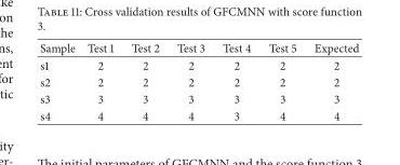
<table><thead><tr><td>Sample</td><td>Test 1</td><td>Test 2</td><td>Test 3</td><td>Test 4</td><td>Test 5</td><td>Expected</td></tr></thead><tbody><tr><td>s1</td><td>2</td><td>2</td><td>2</td><td>2</td><td>2</td><td>2</td></tr><tr><td>s2</td><td>2</td><td>2</td><td>2</td><td>2</td><td>2</td><td>2</td></tr><tr><td>s3</td><td>3</td><td>3</td><td>3</td><td>3</td><td>3</td><td>3</td></tr><tr><td>s4</td><td>4</td><td>4</td><td>4</td><td>3</td><td>4</td><td>4</td></tr></tbody></table>